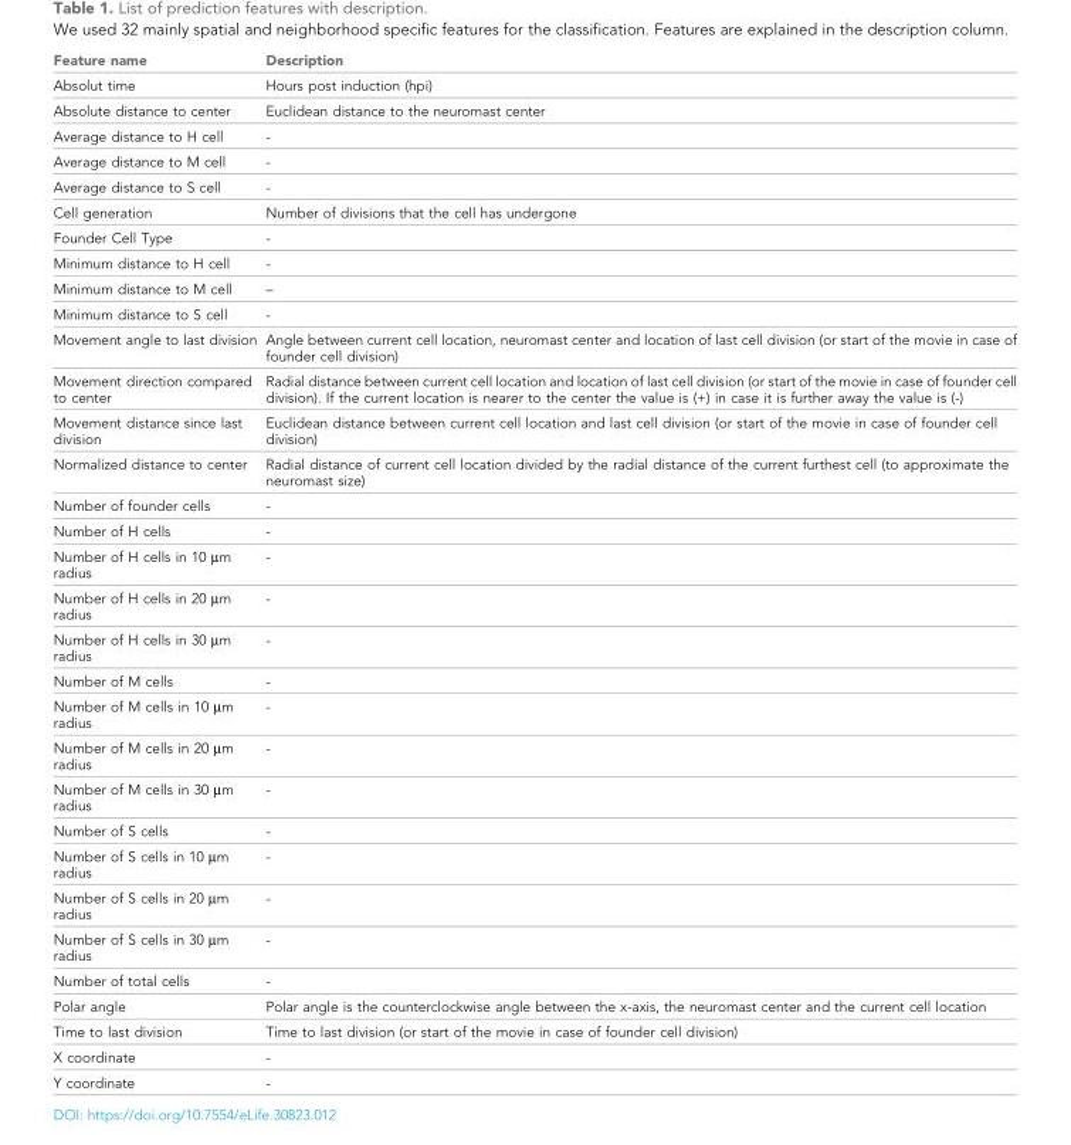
<table><thead><tr><td>Feature name</td><td>Description</td></tr></thead><tbody><tr><td>Absolut time</td><td>Hours post induction (hpi)</td></tr><tr><td>Absolute distance to center</td><td>Euclidean distance to the neuromast center</td></tr><tr><td>Average distance to H cell</td><td>-</td></tr><tr><td>Average distance to M cell</td><td>-</td></tr><tr><td>Average distance to S cell</td><td>-</td></tr><tr><td>Cell generation</td><td>Number of divisions that the cell has undergone</td></tr><tr><td>Founder Cell Type</td><td>-</td></tr><tr><td>Minimum distance to H cell</td><td>-</td></tr><tr><td>Minimum distance to M cell</td><td>–</td></tr><tr><td>Minimum distance to S cell</td><td>-</td></tr><tr><td>Movement angle to last division</td><td>Angle between current cell location, neuromast center and location of last cell division (or start of the movie in case of founder cell division)</td></tr><tr><td>Movement direction compared to center</td><td>Radial distance between current cell location and location of last cell division (or start of the movie in case of founder cell division). If the current location is nearer to the center the value is (+) in case it is further away the value is (-)</td></tr><tr><td>Movement distance since last division</td><td>Euclidean distance between current cell location and last cell division (or start of the movie in case of founder cell division)</td></tr><tr><td>Normalized distance to center</td><td>Radial distance of current cell location divided by the radial distance of the current furthest cell (to approximate the neuromast size)</td></tr><tr><td>Number of founder cells</td><td>-</td></tr><tr><td>Number of H cells</td><td>-</td></tr><tr><td>Number of H cells in 10 µm radius</td><td>-</td></tr><tr><td>Number of H cells in 20 µm radius</td><td>-</td></tr><tr><td>Number of H cells in 30 µm radius</td><td>-</td></tr><tr><td>Number of M cells</td><td>-</td></tr><tr><td>Number of M cells in 10 µm radius</td><td>-</td></tr><tr><td>Number of M cells in 20 µm radius</td><td>-</td></tr><tr><td>Number of M cells in 30 µm radius</td><td>-</td></tr><tr><td>Number of S cells</td><td>-</td></tr><tr><td>Number of S cells in 10 µm radius</td><td>-</td></tr><tr><td>Number of S cells in 20 µm radius</td><td>-</td></tr><tr><td>Number of S cells in 30 µm radius</td><td>-</td></tr><tr><td>Number of total cells</td><td>-</td></tr><tr><td>Polar angle</td><td>Polar angle is the counterclockwise angle between the x-axis, the neuromast center and the current cell location</td></tr><tr><td>Time to last division</td><td>Time to last division (or start of the movie in case of founder cell division)</td></tr><tr><td>X coordinate</td><td>-</td></tr><tr><td>Y coordinate</td><td>-</td></tr></tbody></table>